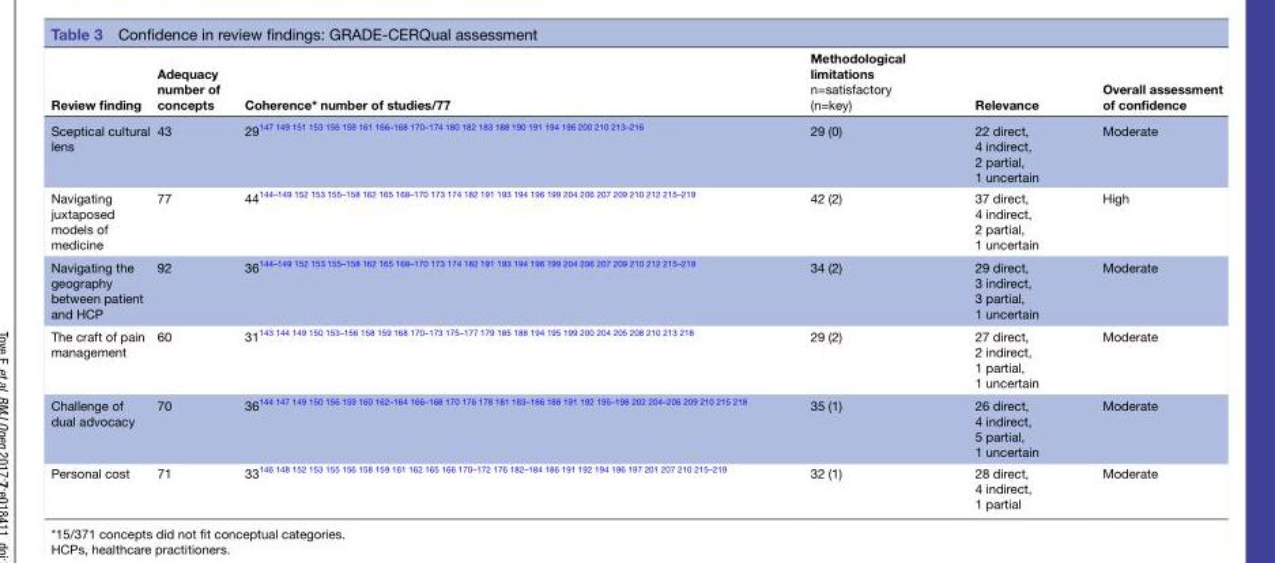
<table><thead><tr><td>Review finding</td><td>Adequacy number of concepts</td><td>Coherence* number of studies/77</td><td>Methodological limitations n=satisfactory (n=key)</td><td>Relevance</td><td>Overall assessment of confidence</td></tr></thead><tbody><tr><td>Sceptical cultural lens</td><td>43</td><td>29<sup>147 149 151 153 156 159 161 166–168 170–174 180 182 183 188 190 191 194 196 200 210 213–216</sup></td><td>29 (0)</td><td>22 direct, 4 indirect, 2 partial, 1 uncertain</td><td>Moderate</td></tr><tr><td>Navigating juxtaposed models of medicine</td><td>77</td><td>44<sup>144–149 152 153 155–158 162 165 168–170 173 174 182 191 193 194 196 199 204 206 207 209 210 212 215–219</sup></td><td>42 (2)</td><td>37 direct, 4 indirect, 2 partial, 1 uncertain</td><td>High</td></tr><tr><td>Navigating the geography between patient and HCP</td><td>92</td><td>36<sup>144–149 152 153 155–158 162 165 168–170 173 174 182 191 193 194 196 199 204 206 207 209 210 212 215–219</sup></td><td>34 (2)</td><td>29 direct, 3 indirect, 3 partial, 1 uncertain</td><td>Moderate</td></tr><tr><td>The craft of pain management</td><td>60</td><td>31<sup>143 144 149 150 153–156 158 159 168 170–173 175–177 179 185 188 194 195 199 200 204 205 208 210 213 218</sup></td><td>29 (2)</td><td>27 direct, 2 indirect, 1 partial, 1 uncertain</td><td>Moderate</td></tr><tr><td>Challenge of dual advocacy</td><td>70</td><td>36<sup>144 147 149 150 156 159 160 162–164 166–168 170 176 178 181 183–186 188 191 192 195–198 202 204–206 209 210 215 218</sup></td><td>35 (1)</td><td>26 direct, 4 indirect, 5 partial, 1 uncertain</td><td>Moderate</td></tr><tr><td>Personal cost</td><td>71</td><td>33<sup>146 148 152 153 155 156 158 159 161 162 165 166 170–172 176 182–184 186 191 192 194 196 197 201 207 210 215–219</sup></td><td>32 (1)</td><td>28 direct, 4 indirect, 1 partial</td><td>Moderate</td></tr></tbody></table>